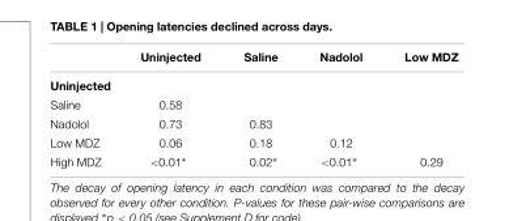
<table><thead><tr><td></td><td>Uninjected</td><td>Saline</td><td>Nadolol</td><td>Low MDZ</td></tr></thead><tbody><tr><td colspan="5">Uninjected</td></tr><tr><td>Saline</td><td>0.58</td><td></td><td></td><td></td></tr><tr><td>Nadolol</td><td>0.73</td><td>0.83</td><td></td><td></td></tr><tr><td>Low MDZ</td><td>0.06</td><td>0.18</td><td>0.12</td><td></td></tr><tr><td>High MDZ</td><td>&lt;0.01∗</td><td>0.02∗</td><td>&lt;0.01∗</td><td>0.29</td></tr></tbody></table>